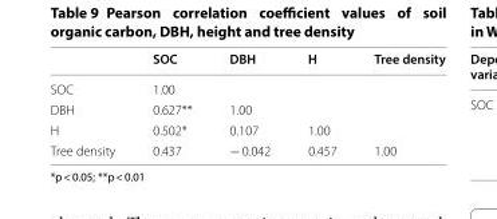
<table><thead><tr><td></td><td>SOC</td><td>DBH</td><td>H</td><td>Tree density</td></tr></thead><tbody><tr><td>SOC</td><td>1.00</td><td></td><td></td><td></td></tr><tr><td>DBH</td><td>0.627**</td><td>1.00</td><td></td><td></td></tr><tr><td>H</td><td>0.502*</td><td>0.107</td><td>1.00</td><td></td></tr><tr><td>Tree density</td><td>0.437</td><td>− 0.042</td><td>0.457</td><td>1.00</td></tr></tbody></table>